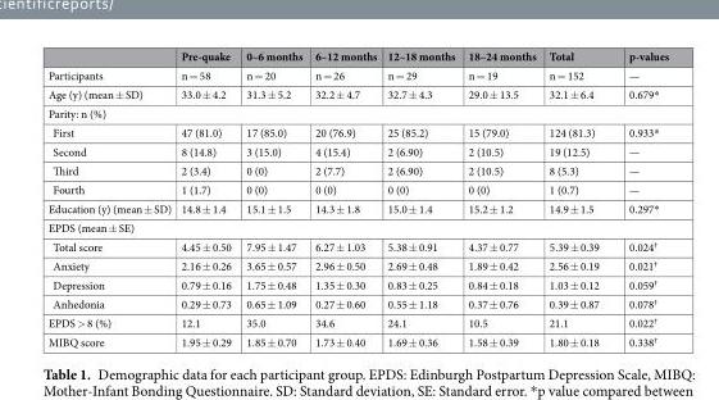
<table><thead><tr><td></td><td>Pre-quake</td><td>0–6 months</td><td>6–12 months</td><td>12–18 months</td><td>18–24 months</td><td>Total</td><td>p-values</td></tr></thead><tbody><tr><td>Participants</td><td>n = 58</td><td>n = 20</td><td>n = 26</td><td>n = 29</td><td>n = 19</td><td>n = 152</td><td>—</td></tr><tr><td>Age (y) (mean ± SD)</td><td>33.0 ± 4.2</td><td>31.3 ± 5.2</td><td>32.2 ± 4.7</td><td>32.7 ± 4.3</td><td>29.0 ± 13.5</td><td>32.1 ± 6.4</td><td>0.679*</td></tr><tr><td colspan="8">Parity: n (%)</td></tr><tr><td>First</td><td>47 (81.0)</td><td>17 (85.0)</td><td>20 (76.9)</td><td>25 (85.2)</td><td>15 (79.0)</td><td>124 (81.3)</td><td>0.933*</td></tr><tr><td>Second</td><td>8 (14.8)</td><td>3 (15.0)</td><td>4 (15.4)</td><td>2 (6.90)</td><td>2 (10.5)</td><td>19 (12.5)</td><td>—</td></tr><tr><td>Third</td><td>2 (3.4)</td><td>0 (0)</td><td>2 (7.7)</td><td>2 (6.90)</td><td>2 (10.5)</td><td>8 (5.3)</td><td>—</td></tr><tr><td>Fourth</td><td>1 (1.7)</td><td>0 (0)</td><td>0 (0)</td><td>0 (0)</td><td>0 (0)</td><td>1 (0.7)</td><td>—</td></tr><tr><td>Education (y) (mean ± SD)</td><td>14.8 ± 1.4</td><td>15.1 ± 1.5</td><td>14.3 ± 1.8</td><td>15.0 ± 1.4</td><td>15.2 ± 1.2</td><td>14.9 ± 1.5</td><td>0.297*</td></tr><tr><td colspan="8">EPDS (mean ± SE)</td></tr><tr><td>Total score</td><td>4.45 ± 0.50</td><td>7.95 ± 1.47</td><td>6.27 ± 1.03</td><td>5.38 ± 0.91</td><td>4.37 ± 0.77</td><td>5.39 ± 0.39</td><td>0.024<sup>†</sup></td></tr><tr><td>Anxiety</td><td>2.16 ± 0.26</td><td>3.65 ± 0.57</td><td>2.96 ± 0.50</td><td>2.69 ± 0.48</td><td>1.89 ± 0.42</td><td>2.56 ± 0.19</td><td>0.021<sup>†</sup></td></tr><tr><td>Depression</td><td>0.79 ± 0.16</td><td>1.75 ± 0.48</td><td>1.35 ± 0.30</td><td>0.83 ± 0.25</td><td>0.84 ± 0.18</td><td>1.03 ± 0.12</td><td>0.059<sup>†</sup></td></tr><tr><td>Anhedonia</td><td>0.29 ± 0.73</td><td>0.65 ± 1.09</td><td>0.27 ± 0.60</td><td>0.55 ± 1.18</td><td>0.37 ± 0.76</td><td>0.39 ± 0.87</td><td>0.078<sup>†</sup></td></tr><tr><td>EPDS &gt; 8 (%)</td><td>12.1</td><td>35.0</td><td>34.6</td><td>24.1</td><td>10.5</td><td>21.1</td><td>0.022<sup>†</sup></td></tr><tr><td>MIBQ score</td><td>1.95 ± 0.29</td><td>1.85 ± 0.70</td><td>1.73 ± 0.40</td><td>1.69 ± 0.36</td><td>1.58 ± 0.39</td><td>1.80 ± 0.18</td><td>0.338<sup>†</sup></td></tr></tbody></table>